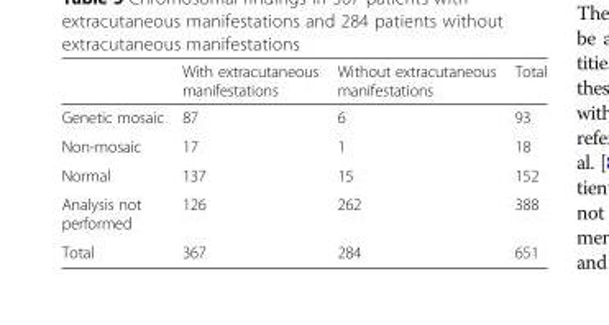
<table><thead><tr><td></td><td>With extracutaneous manifestations</td><td>Without extracutaneous manifestations</td><td>Total</td></tr></thead><tbody><tr><td>Genetic mosaic</td><td>87</td><td>6</td><td>93</td></tr><tr><td>Non-mosaic</td><td>17</td><td>1</td><td>18</td></tr><tr><td>Normal</td><td>137</td><td>15</td><td>152</td></tr><tr><td>Analysis not performed</td><td>126</td><td>262</td><td>388</td></tr><tr><td>Total</td><td>367</td><td>284</td><td>651</td></tr></tbody></table>